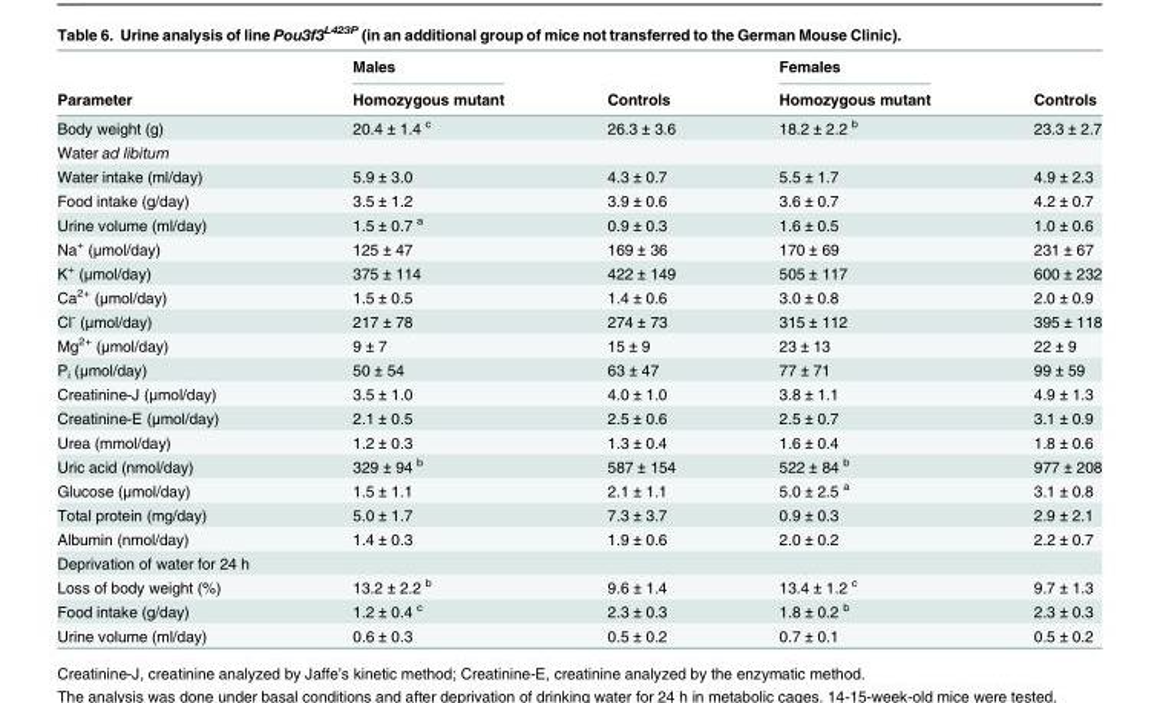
<table><thead><tr><td rowspan="2">Parameter</td><td rowspan="2">Males Homozygous mutant</td><td rowspan="2">Controls</td><td rowspan="2">Females Homozygous mutant</td><td rowspan="2">Controls</td></tr><tr></tr></thead><tbody><tr><td>Body weight (g)</td><td>20.4 ± 1.4 <sup>c</sup></td><td>26.3 ± 3.6</td><td>18.2 ± 2.2 <sup>b</sup></td><td>23.3 ± 2.7</td></tr><tr><td colspan="5">Water ad libitum</td></tr><tr><td>Water intake (ml/day)</td><td>5.9 ± 3.0</td><td>4.3 ± 0.7</td><td>5.5 ± 1.7</td><td>4.9 ± 2.3</td></tr><tr><td>Food intake (g/day)</td><td>3.5 ± 1.2</td><td>3.9 ± 0.6</td><td>3.6 ± 0.7</td><td>4.2 ± 0.7</td></tr><tr><td>Urine volume (ml/day)</td><td>1.5 ± 0.7 <sup>a</sup></td><td>0.9 ± 0.3</td><td>1.6 ± 0.5</td><td>1.0 ± 0.6</td></tr><tr><td>Na<sup>+</sup> (μmol/day)</td><td>125 ± 47</td><td>169 ± 36</td><td>170 ± 69</td><td>231 ± 67</td></tr><tr><td>K<sup>+</sup> (μmol/day)</td><td>375 ± 114</td><td>422 ± 149</td><td>505 ± 117</td><td>600 ± 232</td></tr><tr><td>Ca<sup>2+</sup> (μmol/day)</td><td>1.5 ± 0.5</td><td>1.4 ± 0.6</td><td>3.0 ± 0.8</td><td>2.0 ± 0.9</td></tr><tr><td>Cl<sup>-</sup> (μmol/day)</td><td>217 ± 78</td><td>274 ± 73</td><td>315 ± 112</td><td>395 ± 118</td></tr><tr><td>Mg<sup>2+</sup> (μmol/day)</td><td>9 ± 7</td><td>15 ± 9</td><td>23 ± 13</td><td>22 ± 9</td></tr><tr><td>P<sub>i</sub> (μmol/day)</td><td>50 ± 54</td><td>63 ± 47</td><td>77 ± 71</td><td>99 ± 59</td></tr><tr><td>Creatinine-J (μmol/day)</td><td>3.5 ± 1.0</td><td>4.0 ± 1.0</td><td>3.8 ± 1.1</td><td>4.9 ± 1.3</td></tr><tr><td>Creatinine-E (μmol/day)</td><td>2.1 ± 0.5</td><td>2.5 ± 0.6</td><td>2.5 ± 0.7</td><td>3.1 ± 0.9</td></tr><tr><td>Urea (mmol/day)</td><td>1.2 ± 0.3</td><td>1.3 ± 0.4</td><td>1.6 ± 0.4</td><td>1.8 ± 0.6</td></tr><tr><td>Uric acid (nmol/day)</td><td>329 ± 94 <sup>b</sup></td><td>587 ± 154</td><td>522 ± 84 <sup>b</sup></td><td>977 ± 208</td></tr><tr><td>Glucose (μmol/day)</td><td>1.5 ± 1.1</td><td>2.1 ± 1.1</td><td>5.0 ± 2.5 <sup>a</sup></td><td>3.1 ± 0.8</td></tr><tr><td>Total protein (mg/day)</td><td>5.0 ± 1.7</td><td>7.3 ± 3.7</td><td>0.9 ± 0.3</td><td>2.9 ± 2.1</td></tr><tr><td>Albumin (nmol/day)</td><td>1.4 ± 0.3</td><td>1.9 ± 0.6</td><td>2.0 ± 0.2</td><td>2.2 ± 0.7</td></tr><tr><td colspan="5">Deprivation of water for 24 h</td></tr><tr><td>Loss of body weight (%)</td><td>13.2 ± 2.2 <sup>b</sup></td><td>9.6 ± 1.4</td><td>13.4 ± 1.2 <sup>c</sup></td><td>9.7 ± 1.3</td></tr><tr><td>Food intake (g/day)</td><td>1.2 ± 0.4 <sup>c</sup></td><td>2.3 ± 0.3</td><td>1.8 ± 0.2 <sup>b</sup></td><td>2.3 ± 0.3</td></tr><tr><td>Urine volume (ml/day)</td><td>0.6 ± 0.3</td><td>0.5 ± 0.2</td><td>0.7 ± 0.1</td><td>0.5 ± 0.2</td></tr></tbody></table>